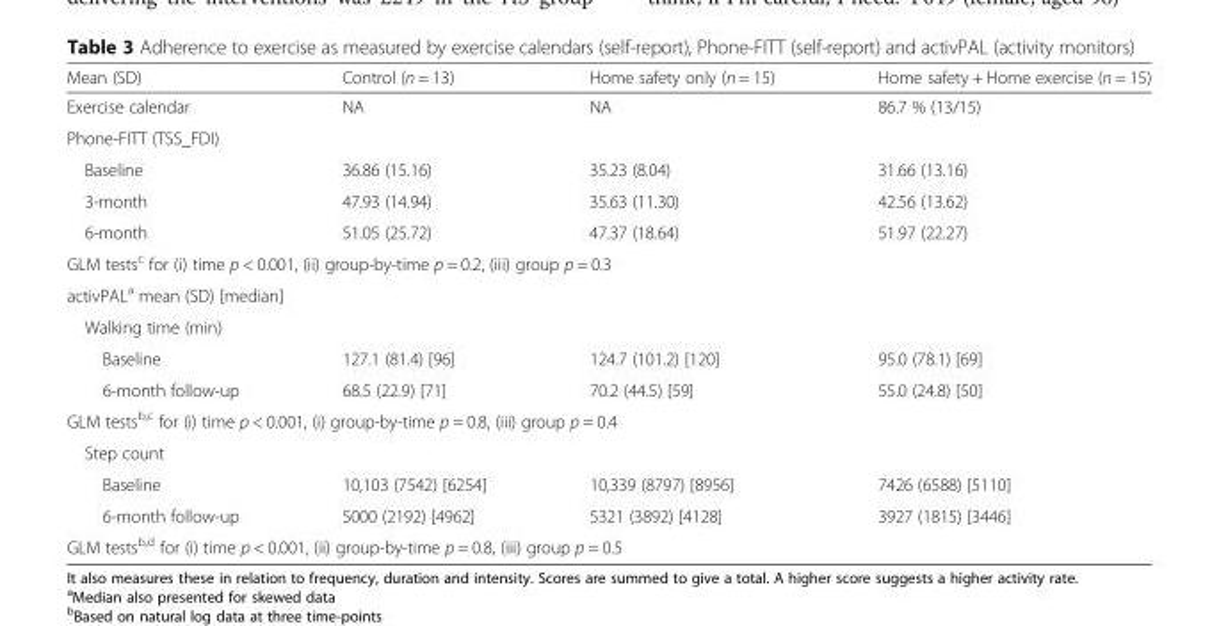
<table><thead><tr><td>Mean (SD)</td><td>Control (n = 13)</td><td>Home safety only (n = 15)</td><td>Home safety + Home exercise (n = 15)</td></tr></thead><tbody><tr><td>Exercise calendar</td><td>NA</td><td>NA</td><td>86.7 % (13/15)</td></tr><tr><td colspan="4">Phone-FITT (TSS_FDI)</td></tr><tr><td>Baseline</td><td>36.86 (15.16)</td><td>35.23 (8.04)</td><td>31.66 (13.16)</td></tr><tr><td>3-month</td><td>47.93 (14.94)</td><td>35.63 (11.30)</td><td>42.56 (13.62)</td></tr><tr><td>6-month</td><td>51.05 (25.72)</td><td>47.37 (18.64)</td><td>51.97 (22.27)</td></tr><tr><td colspan="4">GLM tests<sup>c</sup> for (i) time p &lt; 0.001, (ii) group-by-time p = 0.2, (iii) group p = 0.3</td></tr><tr><td colspan="4">activPAL<sup>a</sup> mean (SD) [median]</td></tr><tr><td colspan="4">Walking time (min)</td></tr><tr><td>Baseline</td><td>127.1 (81.4) [96]</td><td>124.7 (101.2) [120]</td><td>95.0 (78.1) [69]</td></tr><tr><td>6-month follow-up</td><td>68.5 (22.9) [71]</td><td>70.2 (44.5) [59]</td><td>55.0 (24.8) [50]</td></tr><tr><td colspan="4">GLM tests<sup>b,c</sup> for (i) time p &lt; 0.001, (i) group-by-time p = 0.8, (iii) group p = 0.4</td></tr><tr><td colspan="4">Step count</td></tr><tr><td>Baseline</td><td>10,103 (7542) [6254]</td><td>10,339 (8797) [8956]</td><td>7426 (6588) [5110]</td></tr><tr><td>6-month follow-up</td><td>5000 (2192) [4962]</td><td>5321 (3892) [4128]</td><td>3927 (1815) [3446]</td></tr><tr><td colspan="4">GLM tests<sup>b,d</sup> for (i) time p &lt; 0.001, (ii) group-by-time p = 0.8, (iii) group p = 0.5</td></tr></tbody></table>